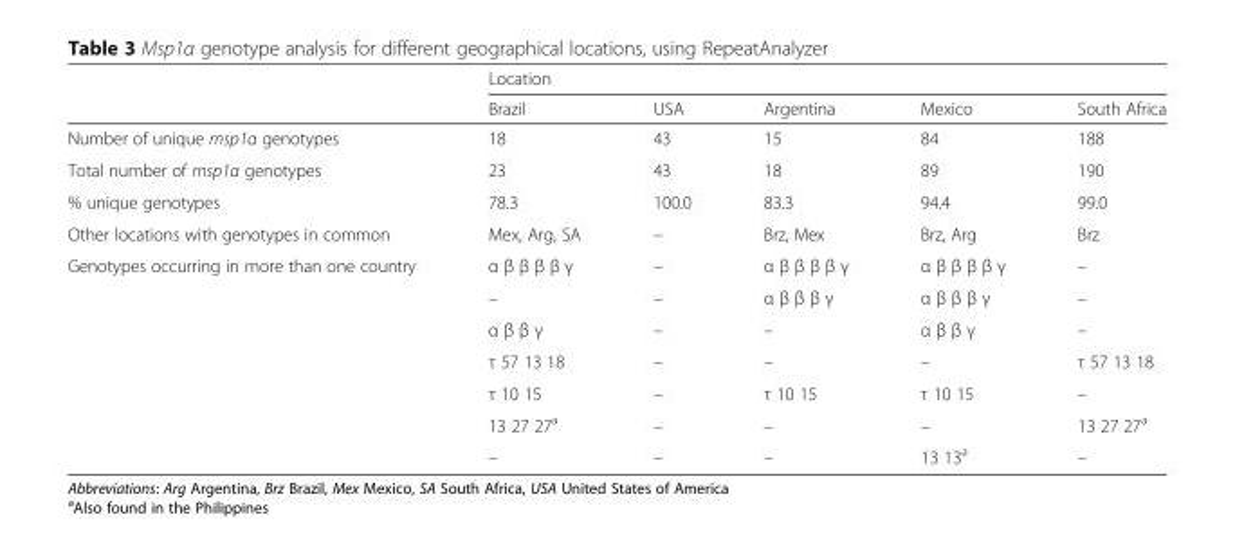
<table><thead><tr><td rowspan="2"></td><td colspan="5">Location</td></tr><tr><td>Brazil</td><td>USA</td><td>Argentina</td><td>Mexico</td><td>South Africa</td></tr></thead><tbody><tr><td>Number of unique msp1α genotypes</td><td>18</td><td>43</td><td>15</td><td>84</td><td>188</td></tr><tr><td>Total number of msp1α genotypes</td><td>23</td><td>43</td><td>18</td><td>89</td><td>190</td></tr><tr><td>% unique genotypes</td><td>78.3</td><td>100.0</td><td>83.3</td><td>94.4</td><td>99.0</td></tr><tr><td>Other locations with genotypes in common</td><td>Mex, Arg, SA</td><td>–</td><td>Brz, Mex</td><td>Brz, Arg</td><td>Brz</td></tr><tr><td rowspan="7">Genotypes occurring in more than one country</td><td>α β β β β γ</td><td>–</td><td>α β β β β γ</td><td>α β β β β γ</td><td>–</td></tr><tr><td>–</td><td>–</td><td>α β β β γ</td><td>α β β β γ</td><td>–</td></tr><tr><td>α β β γ</td><td>–</td><td>–</td><td>α β β γ</td><td>–</td></tr><tr><td>τ 57 13 18</td><td>–</td><td>–</td><td>–</td><td>τ 57 13 18</td></tr><tr><td>τ 10 15</td><td>–</td><td>τ 10 15</td><td>τ 10 15</td><td>–</td></tr><tr><td>13 27 27<sup>a</sup></td><td>–</td><td>–</td><td>–</td><td>13 27 27<sup>a</sup></td></tr><tr><td>–</td><td>–</td><td>–</td><td>13 13<sup>a</sup></td><td>–</td></tr></tbody></table>